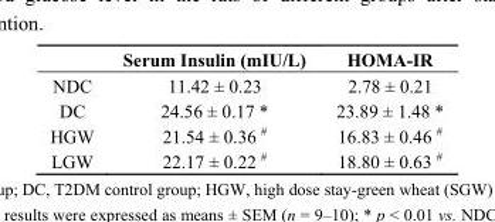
<table><thead><tr><td></td><td>Serum Insulin (mIU/L)</td><td>HOMA-IR</td></tr></thead><tbody><tr><td>NDC</td><td>11.42 ± 0.23</td><td>2.78 ± 0.21</td></tr><tr><td>DC</td><td>24.56 ± 0.17 *</td><td>23.89 ± 1.48 *</td></tr><tr><td>HGW</td><td>21.54 ± 0.36 <sup>#</sup></td><td>16.83 ± 0.46 <sup>#</sup></td></tr><tr><td>LGW</td><td>22.17 ± 0.22 <sup>#</sup></td><td>18.80 ± 0.63 <sup>#</sup></td></tr></tbody></table>